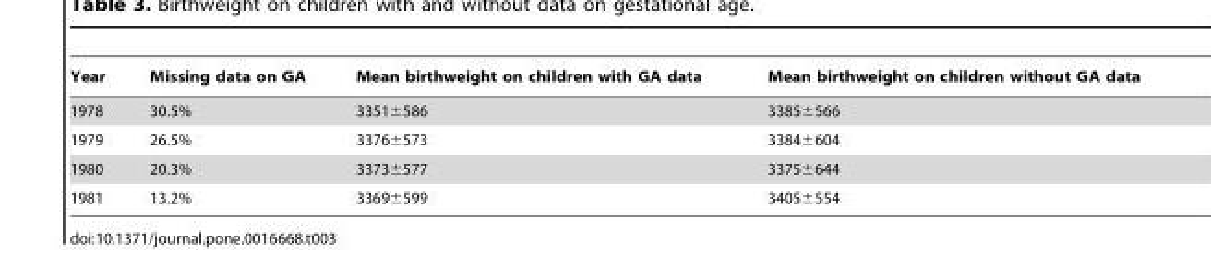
<table><thead><tr><td>Year</td><td>Missing data on GA</td><td>Mean birthweight on children with GA data</td><td>Mean birthweight on children without GA data</td></tr></thead><tbody><tr><td>1978</td><td>30.5%</td><td>3351±586</td><td>3385±566</td></tr><tr><td>1979</td><td>26.5%</td><td>3376±573</td><td>3384±604</td></tr><tr><td>1980</td><td>20.3%</td><td>3373±577</td><td>3375±644</td></tr><tr><td>1981</td><td>13.2%</td><td>3369±599</td><td>3405±554</td></tr></tbody></table>